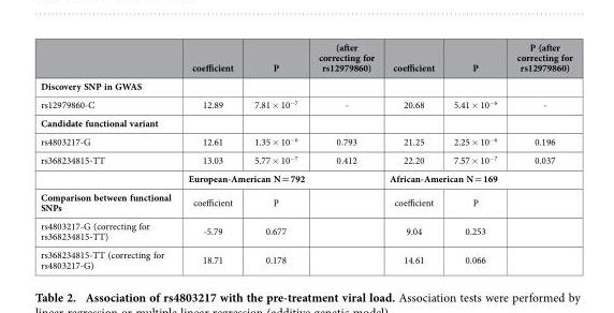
<table><thead><tr><td></td><td>coefficient</td><td>P</td><td>(after correcting for rs12979860)</td><td>coefficient</td><td>P</td><td>P (after correcting for rs12979860)</td></tr></thead><tbody><tr><td colspan="7">Discovery SNP in GWAS</td></tr><tr><td>rs12979860-C</td><td>12.89</td><td>7.81 × 10<sup>−7</sup></td><td>-</td><td>20.68</td><td>5.41 × 10<sup>−6</sup></td><td>-</td></tr><tr><td colspan="7">Candidate functional variant</td></tr><tr><td>rs4803217-G</td><td>12.61</td><td>1.35 × 10<sup>−6</sup></td><td>0.793</td><td>21.25</td><td>2.25 × 10<sup>−6</sup></td><td>0.196</td></tr><tr><td rowspan="2">rs368234815-TT</td><td>13.03</td><td>5.77 × 10<sup>−7</sup></td><td>0.412</td><td>22.20</td><td>7.57 × 10<sup>−7</sup></td><td>0.037</td></tr><tr><td colspan="3">European-American N = 792</td><td colspan="3">African-American N = 169</td></tr><tr><td>Comparison between functional SNPs</td><td>coefficient</td><td>P</td><td></td><td>coefficient</td><td>P</td><td></td></tr><tr><td>rs4803217-G (correcting for rs368234815-TT)</td><td>-5.79</td><td>0.677</td><td></td><td>9.04</td><td>0.253</td><td></td></tr><tr><td>rs368234815-TT (correcting for rs4803217-G)</td><td>18.71</td><td>0.178</td><td></td><td>14.61</td><td>0.066</td><td></td></tr></tbody></table>